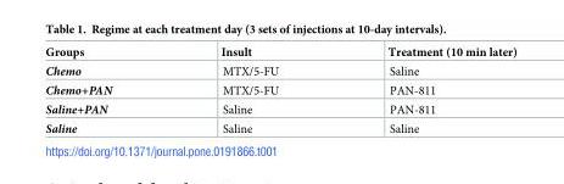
<table><thead><tr><td>Groups</td><td>Insult</td><td>Treatment (10 min later)</td></tr></thead><tbody><tr><td>Chemo</td><td>MTX/5-FU</td><td>Saline</td></tr><tr><td>Chemo+PAN</td><td>MTX/5-FU</td><td>PAN-811</td></tr><tr><td>Saline+PAN</td><td>Saline</td><td>PAN-811</td></tr><tr><td>Saline</td><td>Saline</td><td>Saline</td></tr></tbody></table>